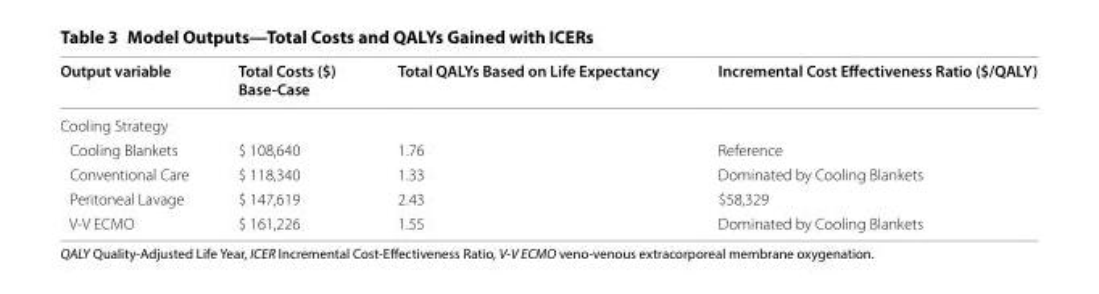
<table><thead><tr><td>Output variable</td><td>Total Costs ($) Base-Case</td><td>Total QALYs Based on Life Expectancy</td><td>Incremental Cost Effectiveness Ratio ($/QALY)</td></tr></thead><tbody><tr><td colspan="4">Cooling Strategy</td></tr><tr><td>Cooling Blankets</td><td>$ 108,640</td><td>1.76</td><td>Reference</td></tr><tr><td>Conventional Care</td><td>$ 118,340</td><td>1.33</td><td>Dominated by Cooling Blankets</td></tr><tr><td>Peritoneal Lavage</td><td>$ 147,619</td><td>2.43</td><td>$58,329</td></tr><tr><td>V-V ECMO</td><td>$ 161,226</td><td>1.55</td><td>Dominated by Cooling Blankets</td></tr></tbody></table>